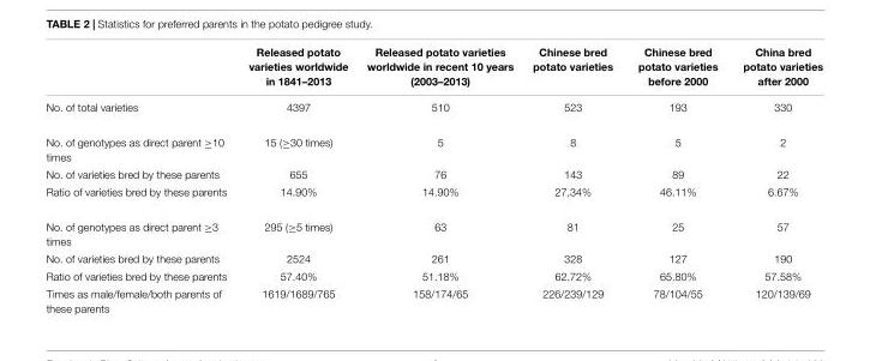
<table><thead><tr><td></td><td>Released potato varieties worldwide in 1841–2013</td><td>Released potato varieties worldwide in recent 10 years (2003–2013)</td><td>Chinese bred potato varieties</td><td>Chinese bred potato varieties before 2000</td><td>China bred potato varieties after 2000</td></tr></thead><tbody><tr><td>No. of total varieties</td><td>4397</td><td>510</td><td>523</td><td>193</td><td>330</td></tr><tr><td>No. of genotypes as direct parent ≥10 times</td><td>15 (≥30 times)</td><td>5</td><td>8</td><td>5</td><td>2</td></tr><tr><td>No. of varieties bred by these parents</td><td>655</td><td>76</td><td>143</td><td>89</td><td>22</td></tr><tr><td>Ratio of varieties bred by these parents</td><td>14.90%</td><td>14.90%</td><td>27,34%</td><td>46.11%</td><td>6.67%</td></tr><tr><td>No. of genotypes as direct parent ≥3 times</td><td>295 (≥5 times)</td><td>63</td><td>81</td><td>25</td><td>57</td></tr><tr><td>No. of varieties bred by these parents</td><td>2524</td><td>261</td><td>328</td><td>127</td><td>190</td></tr><tr><td>Ratio of varieties bred by these parents</td><td>57.40%</td><td>51.18%</td><td>62.72%</td><td>65.80%</td><td>57.58%</td></tr><tr><td>Times as male/female/both parents of these parents</td><td>1619/1689/765</td><td>158/174/65</td><td>226/239/129</td><td>78/104/55</td><td>120/139/69</td></tr></tbody></table>